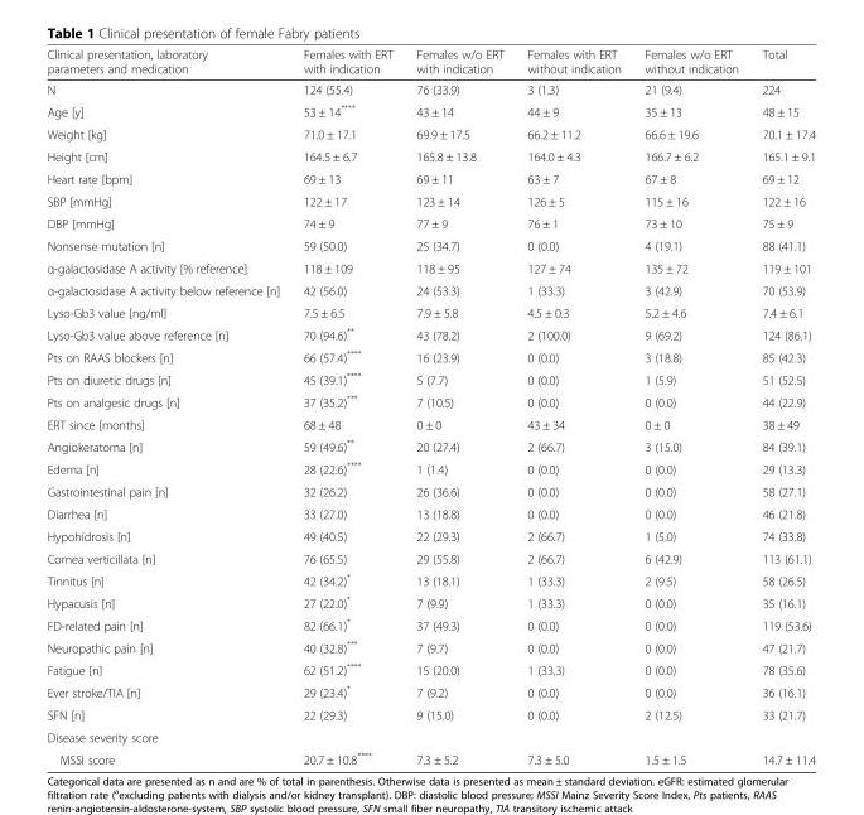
<table><thead><tr><td>Clinical presentation, laboratory parameters and medication</td><td>Females with ERT with indication</td><td>Females w/o ERT with indication</td><td>Females with ERT without indication</td><td>Females w/o ERT without indication</td><td>Total</td></tr></thead><tbody><tr><td>N</td><td>124 (55.4)</td><td>76 (33.9)</td><td>3 (1.3)</td><td>21 (9.4)</td><td>224</td></tr><tr><td>Age [y]</td><td>53 ± 14****</td><td>43 ± 14</td><td>44 ± 9</td><td>35 ± 13</td><td>48 ± 15</td></tr><tr><td>Weight [kg]</td><td>71.0 ± 17.1</td><td>69.9 ± 17.5</td><td>66.2 ± 11.2</td><td>66.6 ± 19.6</td><td>70.1 ± 17.4</td></tr><tr><td>Height [cm]</td><td>164.5 ± 6.7</td><td>165.8 ± 13.8</td><td>164.0 ± 4.3</td><td>166.7 ± 6.2</td><td>165.1 ± 9.1</td></tr><tr><td>Heart rate [bpm]</td><td>69 ± 13</td><td>69 ± 11</td><td>63 ± 7</td><td>67 ± 8</td><td>69 ± 12</td></tr><tr><td>SBP [mmHg]</td><td>122 ± 17</td><td>123 ± 14</td><td>126 ± 5</td><td>115 ± 16</td><td>122 ± 16</td></tr><tr><td>DBP [mmHg]</td><td>74 ± 9</td><td>77 ± 9</td><td>76 ± 1</td><td>73 ± 10</td><td>75 ± 9</td></tr><tr><td>Nonsense mutation [n]</td><td>59 (50.0)</td><td>25 (34.7)</td><td>0 (0.0)</td><td>4 (19.1)</td><td>88 (41.1)</td></tr><tr><td>α-galactosidase A activity [% reference]</td><td>118 ± 109</td><td>118 ± 95</td><td>127 ± 74</td><td>135 ± 72</td><td>119 ± 101</td></tr><tr><td>α-galactosidase A activity below reference [n]</td><td>42 (56.0)</td><td>24 (53.3)</td><td>1 (33.3)</td><td>3 (42.9)</td><td>70 (53.9)</td></tr><tr><td>Lyso-Gb3 value [ng/ml]</td><td>7.5 ± 6.5</td><td>7.9 ± 5.8</td><td>4.5 ± 0.3</td><td>5.2 ± 4.6</td><td>7.4 ± 6.1</td></tr><tr><td>Lyso-Gb3 value above reference [n]</td><td>70 (94.6)**</td><td>43 (78.2)</td><td>2 (100.0)</td><td>9 (69.2)</td><td>124 (86.1)</td></tr><tr><td>Pts on RAAS blockers [n]</td><td>66 (57.4)****</td><td>16 (23.9)</td><td>0 (0.0)</td><td>3 (18.8)</td><td>85 (42.3)</td></tr><tr><td>Pts on diuretic drugs [n]</td><td>45 (39.1)****</td><td>5 (7.7)</td><td>0 (0.0)</td><td>1 (5.9)</td><td>51 (52.5)</td></tr><tr><td>Pts on analgesic drugs [n]</td><td>37 (35.2)***</td><td>7 (10.5)</td><td>0 (0.0)</td><td>0 (0.0)</td><td>44 (22.9)</td></tr><tr><td>ERT since [months]</td><td>68 ± 48</td><td>0 ± 0</td><td>43 ± 34</td><td>0 ± 0</td><td>38 ± 49</td></tr><tr><td>Angiokeratoma [n]</td><td>59 (49.6)**</td><td>20 (27.4)</td><td>2 (66.7)</td><td>3 (15.0)</td><td>84 (39.1)</td></tr><tr><td>Edema [n]</td><td>28 (22.6)****</td><td>1 (1.4)</td><td>0 (0.0)</td><td>0 (0.0)</td><td>29 (13.3)</td></tr><tr><td>Gastrointestinal pain [n]</td><td>32 (26.2)</td><td>26 (36.6)</td><td>0 (0.0)</td><td>0 (0.0)</td><td>58 (27.1)</td></tr><tr><td>Diarrhea [n]</td><td>33 (27.0)</td><td>13 (18.8)</td><td>0 (0.0)</td><td>0 (0.0)</td><td>46 (21.8)</td></tr><tr><td>Hypohidrosis [n]</td><td>49 (40.5)</td><td>22 (29.3)</td><td>2 (66.7)</td><td>1 (5.0)</td><td>74 (33.8)</td></tr><tr><td>Cornea verticillata [n]</td><td>76 (65.5)</td><td>29 (55.8)</td><td>2 (66.7)</td><td>6 (42.9)</td><td>113 (61.1)</td></tr><tr><td>Tinnitus [n]</td><td>42 (34.2)*</td><td>13 (18.1)</td><td>1 (33.3)</td><td>2 (9.5)</td><td>58 (26.5)</td></tr><tr><td>Hypacusis [n]</td><td>27 (22.0)*</td><td>7 (9.9)</td><td>1 (33.3)</td><td>0 (0.0)</td><td>35 (16.1)</td></tr><tr><td>FD-related pain [n]</td><td>82 (66.1)*</td><td>37 (49.3)</td><td>0 (0.0)</td><td>0 (0.0)</td><td>119 (53.6)</td></tr><tr><td>Neuropathic pain [n]</td><td>40 (32.8)***</td><td>7 (9.7)</td><td>0 (0.0)</td><td>0 (0.0)</td><td>47 (21.7)</td></tr><tr><td>Fatigue [n]</td><td>62 (51.2)****</td><td>15 (20.0)</td><td>1 (33.3)</td><td>0 (0.0)</td><td>78 (35.6)</td></tr><tr><td>Ever stroke/TIA [n]</td><td>29 (23.4)*</td><td>7 (9.2)</td><td>0 (0.0)</td><td>0 (0.0)</td><td>36 (16.1)</td></tr><tr><td>SFN [n]</td><td>22 (29.3)</td><td>9 (15.0)</td><td>0 (0.0)</td><td>2 (12.5)</td><td>33 (21.7)</td></tr><tr><td colspan="6">Disease severity score</td></tr><tr><td>MSSI score</td><td>20.7 ± 10.8****</td><td>7.3 ± 5.2</td><td>7.3 ± 5.0</td><td>1.5 ± 1.5</td><td>14.7 ± 11.4</td></tr></tbody></table>